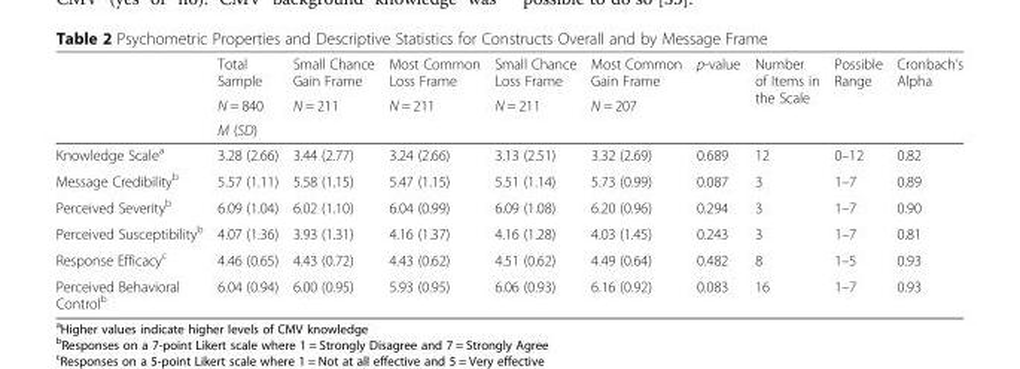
<table><thead><tr><td rowspan="3"></td><td rowspan="2">Total Sample N = 840</td><td rowspan="2">Small Chance Gain Frame N = 211</td><td rowspan="2">Most Common Loss Frame N = 211</td><td rowspan="2">Small Chance Loss Frame N = 211</td><td rowspan="2">Most Common Gain Frame N = 207</td><td rowspan="3">p-value</td><td rowspan="3">Number of Items in the Scale</td><td rowspan="3">Possible Range</td><td rowspan="3">Cronbach’s Alpha</td></tr><tr></tr><tr><td colspan="5">M (SD)</td></tr></thead><tbody><tr><td>Knowledge Scale<sup>a</sup></td><td>3.28 (2.66)</td><td>3.44 (2.77)</td><td>3.24 (2.66)</td><td>3.13 (2.51)</td><td>3.32 (2.69)</td><td>0.689</td><td>12</td><td>0–12</td><td>0.82</td></tr><tr><td>Message Credibility<sup>b</sup></td><td>5.57 (1.11)</td><td>5.58 (1.15)</td><td>5.47 (1.15)</td><td>5.51 (1.14)</td><td>5.73 (0.99)</td><td>0.087</td><td>3</td><td>1–7</td><td>0.89</td></tr><tr><td>Perceived Severity<sup>b</sup></td><td>6.09 (1.04)</td><td>6.02 (1.10)</td><td>6.04 (0.99)</td><td>6.09 (1.08)</td><td>6.20 (0.96)</td><td>0.294</td><td>3</td><td>1–7</td><td>0.90</td></tr><tr><td>Perceived Susceptibility<sup>b</sup></td><td>4.07 (1.36)</td><td>3.93 (1.31)</td><td>4.16 (1.37)</td><td>4.16 (1.28)</td><td>4.03 (1.45)</td><td>0.243</td><td>3</td><td>1–7</td><td>0.81</td></tr><tr><td>Response Efficacy<sup>c</sup></td><td>4.46 (0.65)</td><td>4.43 (0.72)</td><td>4.43 (0.62)</td><td>4.51 (0.62)</td><td>4.49 (0.64)</td><td>0.482</td><td>8</td><td>1–5</td><td>0.93</td></tr><tr><td>Perceived Behavioral Control<sup>b</sup></td><td>6.04 (0.94)</td><td>6.00 (0.95)</td><td>5.93 (0.95)</td><td>6.06 (0.93)</td><td>6.16 (0.92)</td><td>0.083</td><td>16</td><td>1–7</td><td>0.93</td></tr></tbody></table>